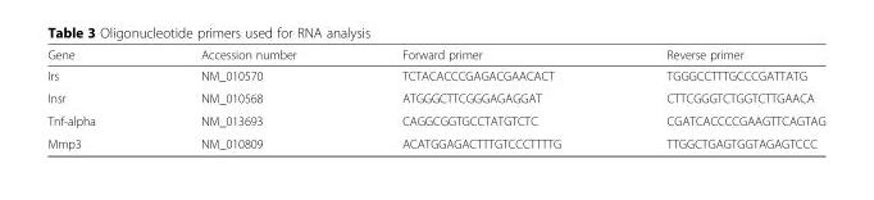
<table><thead><tr><td>Gene</td><td>Accession number</td><td>Forward primer</td><td>Reverse primer</td></tr></thead><tbody><tr><td>Irs</td><td>NM_010570</td><td>TCTACACCCGAGACGAACACT</td><td>TGGGCCTTTGCCCGATTATG</td></tr><tr><td>Insr</td><td>NM_010568</td><td>ATGGGCTTCGGGAGAGGAT</td><td>CTTCGGGTCTGGTCTTGAACA</td></tr><tr><td>Tnf-alpha</td><td>NM_013693</td><td>CAGGCGGTGCCTATGTCTC</td><td>CGATCACCCCGAAGTTCAGTAG</td></tr><tr><td>Mmp3</td><td>NM_010809</td><td>ACATGGAGACTTTGTCCCTTTTG</td><td>TTGGCTGAGTGGTAGAGTCCC</td></tr></tbody></table>